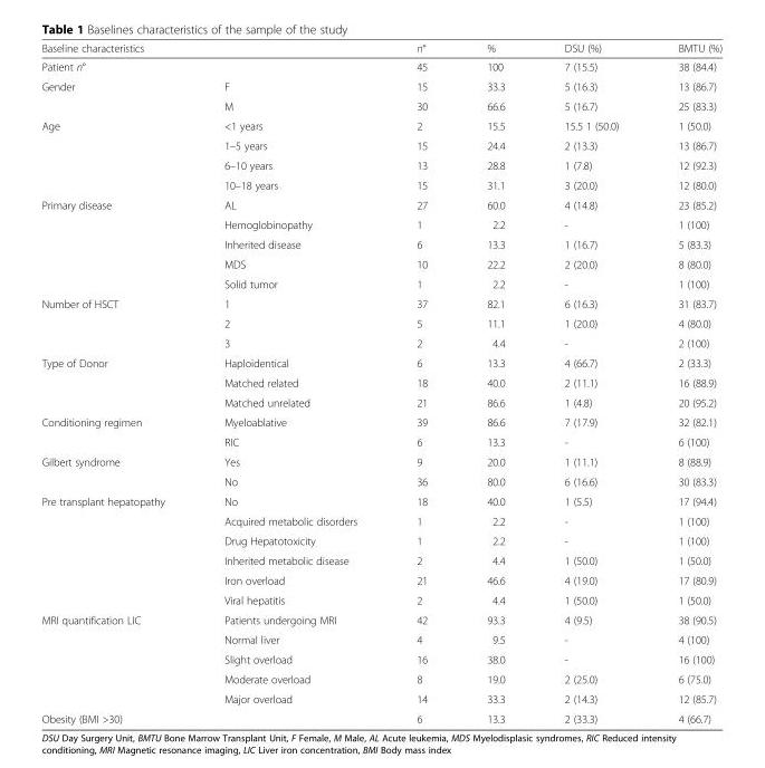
<table><thead><tr><td>Baseline characteristics</td><td></td><td>n°</td><td>%</td><td>DSU (%)</td><td>BMTU (%)</td></tr></thead><tbody><tr><td>Patient n°</td><td></td><td>45</td><td>100</td><td>7 (15.5)</td><td>38 (84.4)</td></tr><tr><td rowspan="2">Gender</td><td>F</td><td>15</td><td>33.3</td><td>5 (16.3)</td><td>13 (86.7)</td></tr><tr><td>M</td><td>30</td><td>66.6</td><td>5 (16.7)</td><td>25 (83.3)</td></tr><tr><td rowspan="4">Age</td><td>&lt;1 years</td><td>2</td><td>15.5</td><td>15.5 1 (50.0)</td><td>1 (50.0)</td></tr><tr><td>1–5 years</td><td>15</td><td>24.4</td><td>2 (13.3)</td><td>13 (86.7)</td></tr><tr><td>6–10 years</td><td>13</td><td>28.8</td><td>1 (7.8)</td><td>12 (92.3)</td></tr><tr><td>10–18 years</td><td>15</td><td>31.1</td><td>3 (20.0)</td><td>12 (80.0)</td></tr><tr><td rowspan="5">Primary disease</td><td>AL</td><td>27</td><td>60.0</td><td>4 (14.8)</td><td>23 (85.2)</td></tr><tr><td>Hemoglobinopathy</td><td>1</td><td>2.2</td><td>-</td><td>1 (100)</td></tr><tr><td>Inherited disease</td><td>6</td><td>13.3</td><td>1 (16.7)</td><td>5 (83.3)</td></tr><tr><td>MDS</td><td>10</td><td>22.2</td><td>2 (20.0)</td><td>8 (80.0)</td></tr><tr><td>Solid tumor</td><td>1</td><td>2.2</td><td>-</td><td>1 (100)</td></tr><tr><td rowspan="3">Number of HSCT</td><td>1</td><td>37</td><td>82.1</td><td>6 (16.3)</td><td>31 (83.7)</td></tr><tr><td>2</td><td>5</td><td>11.1</td><td>1 (20.0)</td><td>4 (80.0)</td></tr><tr><td>3</td><td>2</td><td>4.4</td><td>-</td><td>2 (100)</td></tr><tr><td rowspan="3">Type of Donor</td><td>Haploidentical</td><td>6</td><td>13.3</td><td>4 (66.7)</td><td>2 (33.3)</td></tr><tr><td>Matched related</td><td>18</td><td>40.0</td><td>2 (11.1)</td><td>16 (88.9)</td></tr><tr><td>Matched unrelated</td><td>21</td><td>86.6</td><td>1 (4.8)</td><td>20 (95.2)</td></tr><tr><td rowspan="2">Conditioning regimen</td><td>Myeloablative</td><td>39</td><td>86.6</td><td>7 (17.9)</td><td>32 (82.1)</td></tr><tr><td>RIC</td><td>6</td><td>13.3</td><td>-</td><td>6 (100)</td></tr><tr><td rowspan="2">Gilbert syndrome</td><td>Yes</td><td>9</td><td>20.0</td><td>1 (11.1)</td><td>8 (88.9)</td></tr><tr><td>No</td><td>36</td><td>80.0</td><td>6 (16.6)</td><td>30 (83.3)</td></tr><tr><td rowspan="6">Pre transplant hepatopathy</td><td>No</td><td>18</td><td>40.0</td><td>1 (5.5)</td><td>17 (94.4)</td></tr><tr><td>Acquired metabolic disorders</td><td>1</td><td>2.2</td><td>-</td><td>1 (100)</td></tr><tr><td>Drug Hepatotoxicity</td><td>1</td><td>2.2</td><td>-</td><td>1 (100)</td></tr><tr><td>Inherited metabolic disease</td><td>2</td><td>4.4</td><td>1 (50.0)</td><td>1 (50.0)</td></tr><tr><td>Iron overload</td><td>21</td><td>46.6</td><td>4 (19.0)</td><td>17 (80.9)</td></tr><tr><td>Viral hepatitis</td><td>2</td><td>4.4</td><td>1 (50.0)</td><td>1 (50.0)</td></tr><tr><td rowspan="5">MRI quantification LIC</td><td>Patients undergoing MRI</td><td>42</td><td>93.3</td><td>4 (9.5)</td><td>38 (90.5)</td></tr><tr><td>Normal liver</td><td>4</td><td>9.5</td><td>-</td><td>4 (100)</td></tr><tr><td>Slight overload</td><td>16</td><td>38.0</td><td>-</td><td>16 (100)</td></tr><tr><td>Moderate overload</td><td>8</td><td>19.0</td><td>2 (25.0)</td><td>6 (75.0)</td></tr><tr><td>Major overload</td><td>14</td><td>33.3</td><td>2 (14.3)</td><td>12 (85.7)</td></tr><tr><td>Obesity (BMI &gt;30)</td><td></td><td>6</td><td>13.3</td><td>2 (33.3)</td><td>4 (66.7)</td></tr></tbody></table>